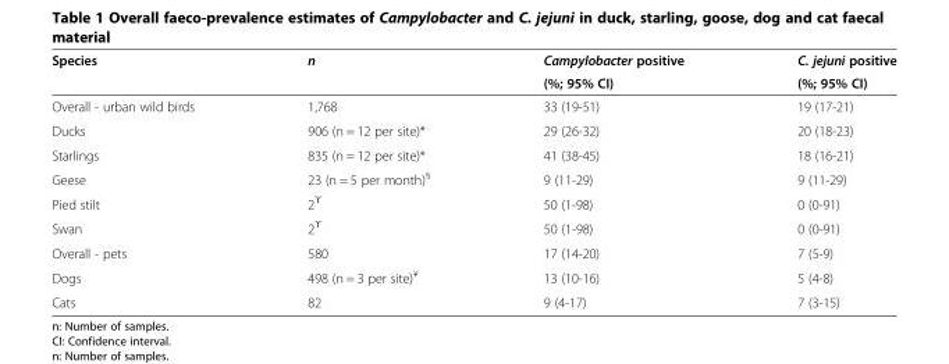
<table><thead><tr><td rowspan="2">Species</td><td rowspan="2">n</td><td rowspan="2">Campylobacter positive (%; 95% CI)</td><td rowspan="2">C. jejuni positive (%; 95% CI)</td></tr><tr></tr></thead><tbody><tr><td>Overall - urban wild birds</td><td>1,768</td><td>33 (19-51)</td><td>19 (17-21)</td></tr><tr><td>Ducks</td><td>906 (n = 12 per site)*</td><td>29 (26-32)</td><td>20 (18-23)</td></tr><tr><td>Starlings</td><td>835 (n = 12 per site)*</td><td>41 (38-45)</td><td>18 (16-21)</td></tr><tr><td>Geese</td><td>23 (n = 5 per month)<sup>§</sup></td><td>9 (11-29)</td><td>9 (11-29)</td></tr><tr><td>Pied stilt</td><td>2<sup>ϒ</sup></td><td>50 (1-98)</td><td>0 (0-91)</td></tr><tr><td>Swan</td><td>2<sup>ϒ</sup></td><td>50 (1-98)</td><td>0 (0-91)</td></tr><tr><td>Overall - pets</td><td>580</td><td>17 (14-20)</td><td>7 (5-9)</td></tr><tr><td>Dogs</td><td>498 (n = 3 per site)<sup>¥</sup></td><td>13 (10-16)</td><td>5 (4-8)</td></tr><tr><td>Cats</td><td>82</td><td>9 (4-17)</td><td>7 (3-15)</td></tr></tbody></table>